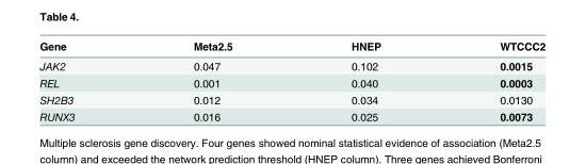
<table><thead><tr><td>Gene</td><td>Meta2.5</td><td>HNEP</td><td>WTCCC2</td></tr></thead><tbody><tr><td>JAK2</td><td>0.047</td><td>0.102</td><td>0.0015</td></tr><tr><td>REL</td><td>0.001</td><td>0.040</td><td>0.0003</td></tr><tr><td>SH2B3</td><td>0.012</td><td>0.034</td><td>0.0130</td></tr><tr><td>RUNX3</td><td>0.016</td><td>0.025</td><td>0.0073</td></tr></tbody></table>